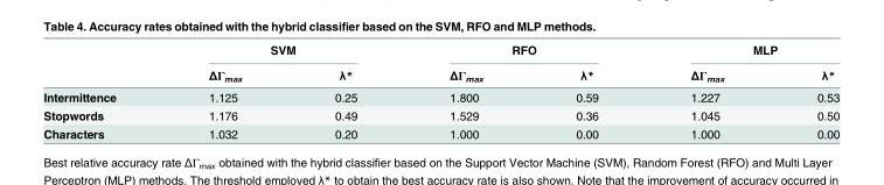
<table><thead><tr><td rowspan="2"></td><td colspan="2">SVM</td><td colspan="2">RFO</td><td colspan="2">MLP</td></tr><tr><td>ΔΓ<sub>max</sub></td><td>λ*</td><td>ΔΓ<sub>max</sub></td><td>λ*</td><td>ΔΓ<sub>max</sub></td><td>λ*</td></tr></thead><tbody><tr><td>Intermittence</td><td>1.125</td><td>0.25</td><td>1.800</td><td>0.59</td><td>1.227</td><td>0.53</td></tr><tr><td>Stopwords</td><td>1.176</td><td>0.49</td><td>1.529</td><td>0.36</td><td>1.045</td><td>0.50</td></tr><tr><td>Characters</td><td>1.032</td><td>0.20</td><td>1.000</td><td>0.00</td><td>1.000</td><td>0.00</td></tr></tbody></table>